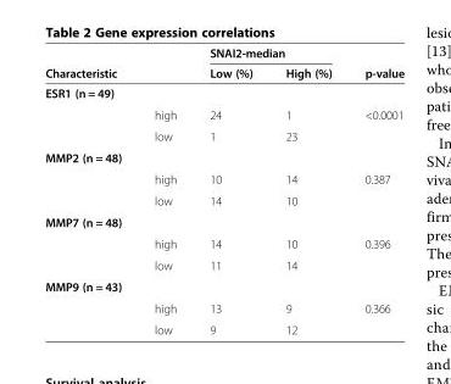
<table><thead><tr><td></td><td></td><td colspan="2">SNAI2-median</td><td rowspan="2">p-value</td></tr><tr><td colspan="2">Characteristic</td><td>Low (%)</td><td>High (%)</td></tr></thead><tbody><tr><td colspan="5">ESR1 (n = 49)</td></tr><tr><td></td><td>high</td><td>24</td><td>1</td><td>&lt;0.0001</td></tr><tr><td></td><td>low</td><td>1</td><td>23</td><td></td></tr><tr><td colspan="5">MMP2 (n = 48)</td></tr><tr><td></td><td>high</td><td>10</td><td>14</td><td>0.387</td></tr><tr><td></td><td>low</td><td>14</td><td>10</td><td></td></tr><tr><td colspan="5">MMP7 (n = 48)</td></tr><tr><td></td><td>high</td><td>14</td><td>10</td><td>0.396</td></tr><tr><td></td><td>low</td><td>11</td><td>14</td><td></td></tr><tr><td colspan="5">MMP9 (n = 43)</td></tr><tr><td></td><td>high</td><td>13</td><td>9</td><td>0.366</td></tr><tr><td></td><td>low</td><td>9</td><td>12</td><td></td></tr></tbody></table>